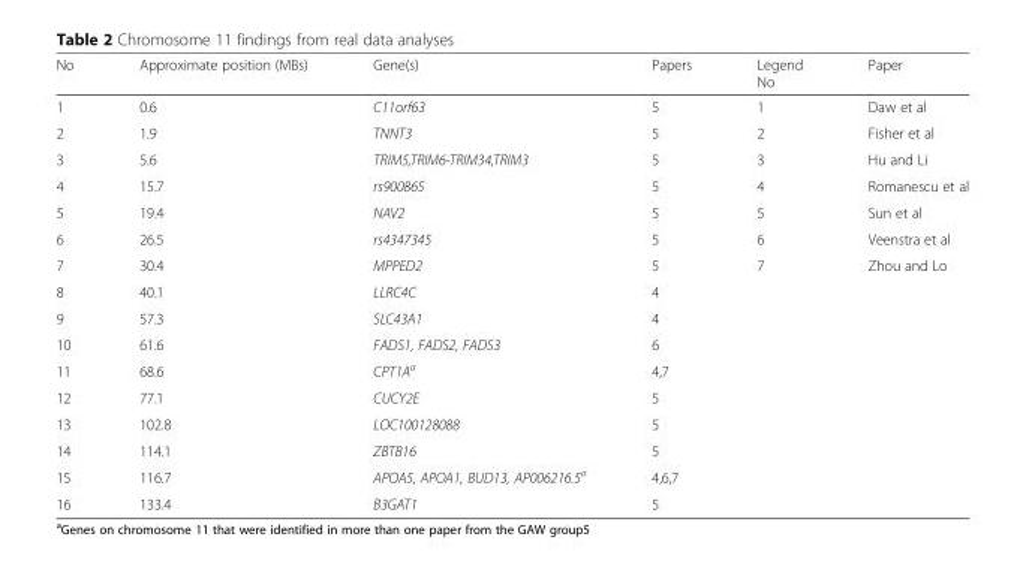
<table><thead><tr><td>No</td><td>Approximate position (MBs)</td><td>Gene(s)</td><td>Papers</td><td>Legend No</td><td>Paper</td></tr></thead><tbody><tr><td>1</td><td>0.6</td><td>C11orf63</td><td>5</td><td>1</td><td>Daw et al</td></tr><tr><td>2</td><td>1.9</td><td>TNNT3</td><td>5</td><td>2</td><td>Fisher et al</td></tr><tr><td>3</td><td>5.6</td><td>TRIM5,TRIM6-TRIM34,TRIM3</td><td>5</td><td>3</td><td>Hu and Li</td></tr><tr><td>4</td><td>15.7</td><td>rs900865</td><td>5</td><td>4</td><td>Romanescu et al</td></tr><tr><td>5</td><td>19.4</td><td>NAV2</td><td>5</td><td>5</td><td>Sun et al</td></tr><tr><td>6</td><td>26.5</td><td>rs4347345</td><td>5</td><td>6</td><td>Veenstra et al</td></tr><tr><td>7</td><td>30.4</td><td>MPPED2</td><td>5</td><td>7</td><td>Zhou and Lo</td></tr><tr><td>8</td><td>40.1</td><td>LLRC4C</td><td>4</td><td></td><td></td></tr><tr><td>9</td><td>57.3</td><td>SLC43A1</td><td>4</td><td></td><td></td></tr><tr><td>10</td><td>61.6</td><td>FADS1, FADS2, FADS3</td><td>6</td><td></td><td></td></tr><tr><td>11</td><td>68.6</td><td>CPT1A<sup>a</sup></td><td>4,7</td><td></td><td></td></tr><tr><td>12</td><td>77.1</td><td>CUCY2E</td><td>5</td><td></td><td></td></tr><tr><td>13</td><td>102.8</td><td>LOC100128088</td><td>5</td><td></td><td></td></tr><tr><td>14</td><td>114.1</td><td>ZBTB16</td><td>5</td><td></td><td></td></tr><tr><td>15</td><td>116.7</td><td>APOA5, APOA1, BUD13, AP006216.5<sup>a</sup></td><td>4,6,7</td><td></td><td></td></tr><tr><td>16</td><td>133.4</td><td>B3GAT1</td><td>5</td><td></td><td></td></tr></tbody></table>